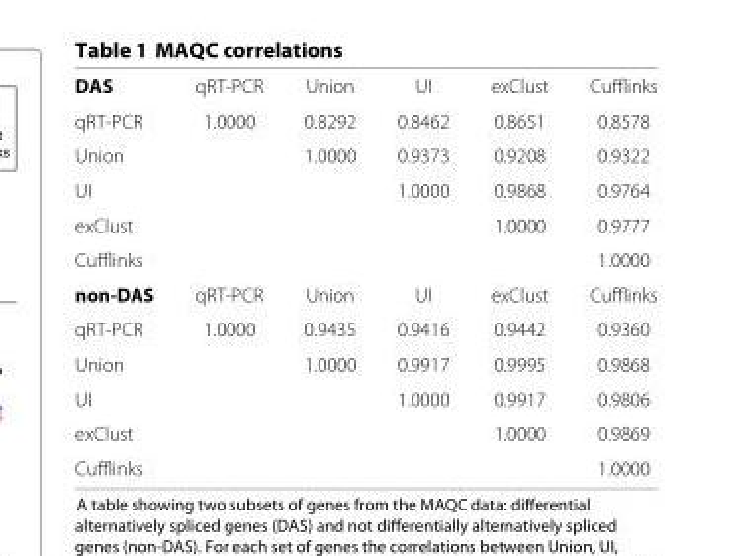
<table><thead><tr><td rowspan="12">DAS qRT-PCR Union UI exClust Cufflinks non-DAS qRT-PCR Union UI exClust Cufflinks</td><td rowspan="12">qRT-PCR 1.0000 qRT-PCR 1.0000</td><td rowspan="12">Union 0.8292 1.0000 Union 0.9435 1.0000</td><td rowspan="12">UI 0.8462 0.9373 1.0000 UI 0.9416 0.9917 1.0000</td><td rowspan="12">exClust 0.8651 0.9208 0.9868 1.0000 exClust 0.9442 0.9995 0.9917 1.0000</td><td rowspan="12">Cufflinks 0.8578 0.9322 0.9764 0.9777 1.0000 Cufflinks 0.9360 0.9868 0.9806 0.9869 1.0000</td></tr><tr></tr><tr></tr><tr></tr><tr></tr><tr></tr><tr></tr><tr></tr><tr></tr><tr></tr><tr></tr><tr></tr></thead><tbody></tbody></table>